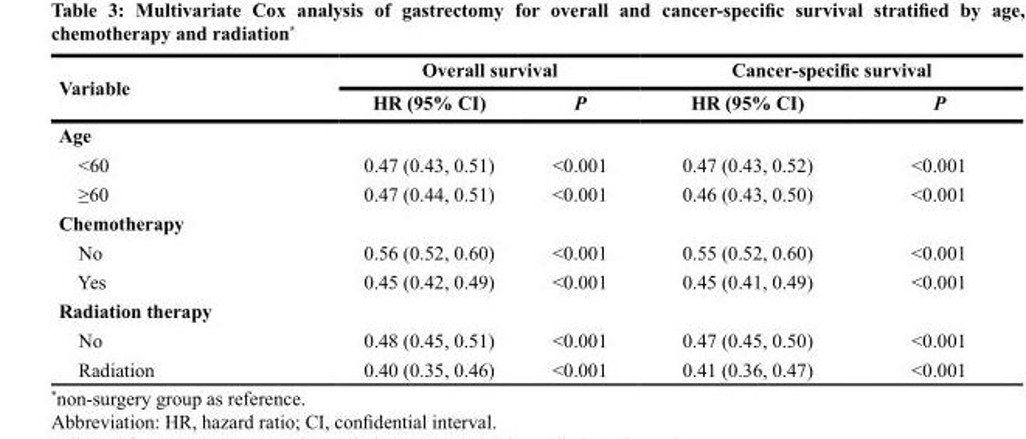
<table><thead><tr><td rowspan="2">Variable</td><td colspan="2">Overall survival</td><td colspan="2">Cancer-specific survival</td></tr><tr><td>HR (95% CI)</td><td>P</td><td>HR (95% CI)</td><td>P</td></tr></thead><tbody><tr><td colspan="5">Age</td></tr><tr><td>&lt;60</td><td>0.47 (0.43, 0.51)</td><td>&lt;0.001</td><td>0.47 (0.43, 0.52)</td><td>&lt;0.001</td></tr><tr><td>≥60</td><td>0.47 (0.44, 0.51)</td><td>&lt;0.001</td><td>0.46 (0.43, 0.50)</td><td>&lt;0.001</td></tr><tr><td colspan="5">Chemotherapy</td></tr><tr><td>No</td><td>0.56 (0.52, 0.60)</td><td>&lt;0.001</td><td>0.55 (0.52, 0.60)</td><td>&lt;0.001</td></tr><tr><td>Yes</td><td>0.45 (0.42, 0.49)</td><td>&lt;0.001</td><td>0.45 (0.41, 0.49)</td><td>&lt;0.001</td></tr><tr><td colspan="5">Radiation therapy</td></tr><tr><td>No</td><td>0.48 (0.45, 0.51)</td><td>&lt;0.001</td><td>0.47 (0.45, 0.50)</td><td>&lt;0.001</td></tr><tr><td>Radiation</td><td>0.40 (0.35, 0.46)</td><td>&lt;0.001</td><td>0.41 (0.36, 0.47)</td><td>&lt;0.001</td></tr></tbody></table>